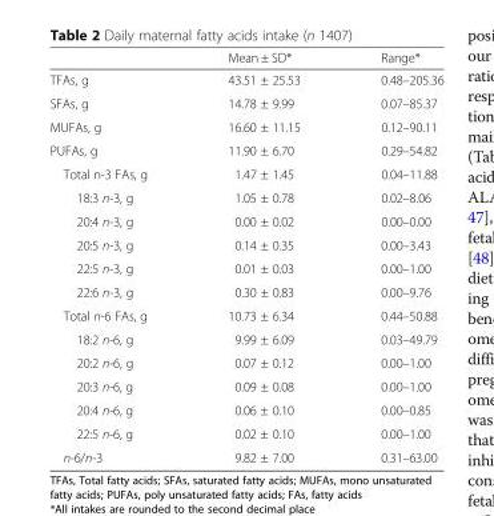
<table><thead><tr><td></td><td>Mean ± SD*</td><td>Range*</td></tr></thead><tbody><tr><td>TFAs, g</td><td>43.51 ± 25.53</td><td>0.48–205.36</td></tr><tr><td>SFAs, g</td><td>14.78 ± 9.99</td><td>0.07–85.37</td></tr><tr><td>MUFAs, g</td><td>16.60 ± 11.15</td><td>0.12–90.11</td></tr><tr><td>PUFAs, g</td><td>11.90 ± 6.70</td><td>0.29–54.82</td></tr><tr><td>Total n-3 FAs, g</td><td>1.47 ± 1.45</td><td>0.04–11.88</td></tr><tr><td>18:3 n-3, g</td><td>1.05 ± 0.78</td><td>0.02–8.06</td></tr><tr><td>20:4 n-3, g</td><td>0.00 ± 0.02</td><td>0.00–0.00</td></tr><tr><td>20:5 n-3, g</td><td>0.14 ± 0.35</td><td>0.00–3.43</td></tr><tr><td>22:5 n-3, g</td><td>0.01 ± 0.03</td><td>0.00–1.00</td></tr><tr><td>22:6 n-3, g</td><td>0.30 ± 0.83</td><td>0.00–9.76</td></tr><tr><td>Total n-6 FAs, g</td><td>10.73 ± 6.34</td><td>0.44–50.88</td></tr><tr><td>18:2 n-6, g</td><td>9.99 ± 6.09</td><td>0.03–49.79</td></tr><tr><td>20:2 n-6, g</td><td>0.07 ± 0.12</td><td>0.00–1.00</td></tr><tr><td>20:3 n-6, g</td><td>0.09 ± 0.08</td><td>0.00–1.00</td></tr><tr><td>20:4 n-6, g</td><td>0.06 ± 0.10</td><td>0.00–0.85</td></tr><tr><td>22:5 n-6, g</td><td>0.02 ± 0.10</td><td>0.00–1.00</td></tr><tr><td>n-6/n-3</td><td>9.82 ± 7.00</td><td>0.31–63.00</td></tr></tbody></table>